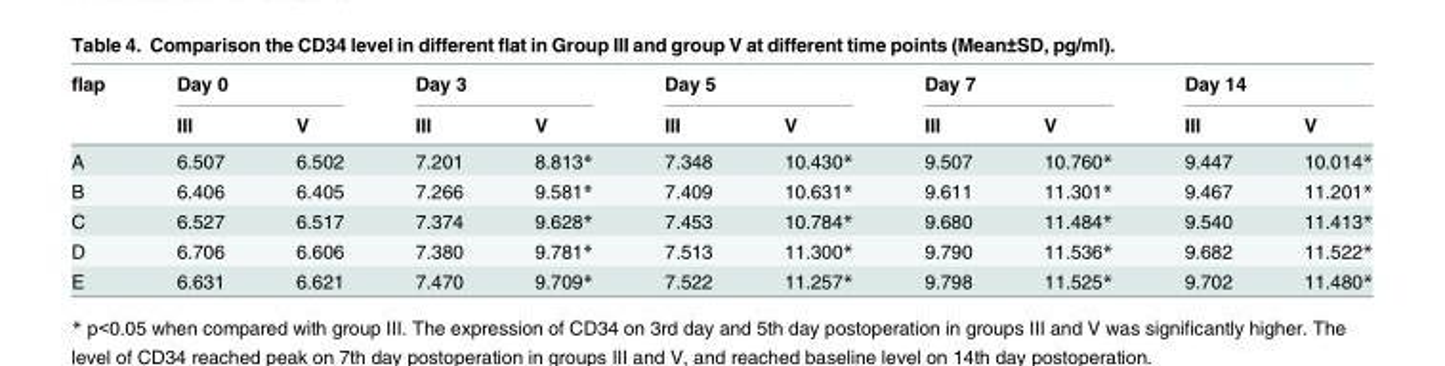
<table><thead><tr><td rowspan="2">flap</td><td colspan="2">Day 0</td><td colspan="2">Day 3</td><td colspan="2">Day 5</td><td colspan="2">Day 7</td><td colspan="2">Day 14</td></tr><tr><td>III</td><td>V</td><td>III</td><td>V</td><td>III</td><td>V</td><td>III</td><td>V</td><td>III</td><td>V</td></tr></thead><tbody><tr><td>A</td><td>6.507</td><td>6.502</td><td>7.201</td><td>8.813*</td><td>7.348</td><td>10.430*</td><td>9.507</td><td>10.760*</td><td>9.447</td><td>10.014*</td></tr><tr><td>B</td><td>6.406</td><td>6.405</td><td>7.266</td><td>9.581*</td><td>7.409</td><td>10.631*</td><td>9.611</td><td>11.301*</td><td>9.467</td><td>11.201*</td></tr><tr><td>C</td><td>6.527</td><td>6.517</td><td>7.374</td><td>9.628*</td><td>7.453</td><td>10.784*</td><td>9.680</td><td>11.484*</td><td>9.540</td><td>11.413*</td></tr><tr><td>D</td><td>6.706</td><td>6.606</td><td>7.380</td><td>9.781*</td><td>7.513</td><td>11.300*</td><td>9.790</td><td>11.536*</td><td>9.682</td><td>11.522*</td></tr><tr><td>E</td><td>6.631</td><td>6.621</td><td>7.470</td><td>9.709*</td><td>7.522</td><td>11.257*</td><td>9.798</td><td>11.525*</td><td>9.702</td><td>11.480*</td></tr></tbody></table>